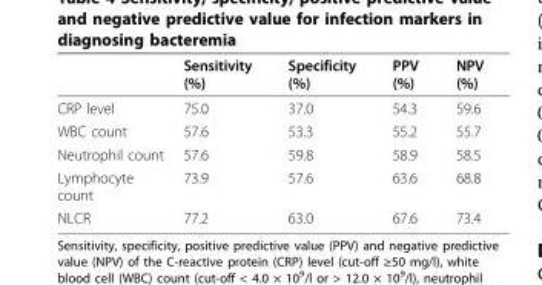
<table><thead><tr><td></td><td>Sensitivity (%)</td><td>Specificity (%)</td><td>PPV (%)</td><td>NPV (%)</td></tr></thead><tbody><tr><td>CRP level</td><td>75.0</td><td>37.0</td><td>54.3</td><td>59.6</td></tr><tr><td>WBC count</td><td>57.6</td><td>53.3</td><td>55.2</td><td>55.7</td></tr><tr><td>Neutrophil count</td><td>57.6</td><td>59.8</td><td>58.9</td><td>58.5</td></tr><tr><td>Lymphocyte count</td><td>73.9</td><td>57.6</td><td>63.6</td><td>68.8</td></tr><tr><td>NLCR</td><td>77.2</td><td>63.0</td><td>67.6</td><td>73.4</td></tr></tbody></table>